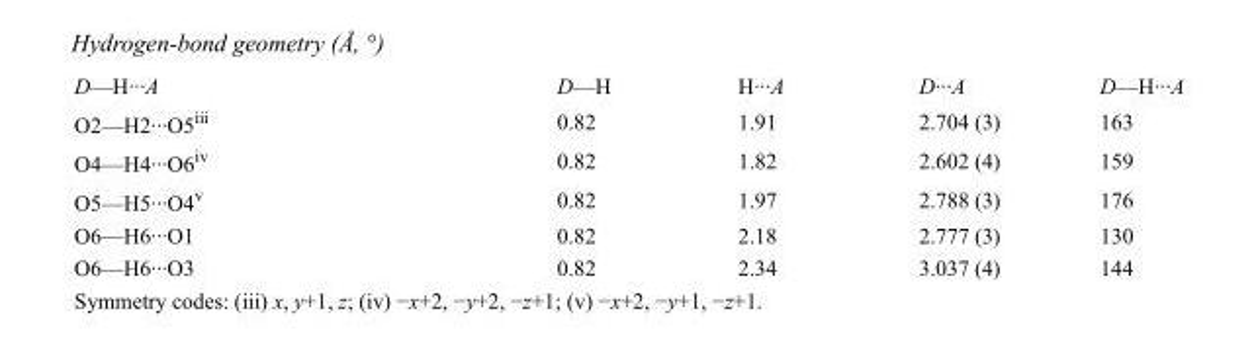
<table><tbody><tr><td>D—H···A</td><td>D—H</td><td>H···A</td><td>D···A</td><td>D—H···A</td></tr><tr><td>O2—H2···O5<sup>iii</sup></td><td>0.82</td><td>1.91</td><td>2.704 (3)</td><td>163</td></tr><tr><td>O4—H4···O6<sup>iv</sup></td><td>0.82</td><td>1.82</td><td>2.602 (4)</td><td>159</td></tr><tr><td>O5—H5···O4<sup>v</sup></td><td>0.82</td><td>1.97</td><td>2.788 (3)</td><td>176</td></tr><tr><td>O6—H6···O1</td><td>0.82</td><td>2.18</td><td>2.777 (3)</td><td>130</td></tr><tr><td>O6—H6···O3</td><td>0.82</td><td>2.34</td><td>3.037 (4)</td><td>144</td></tr></tbody></table>